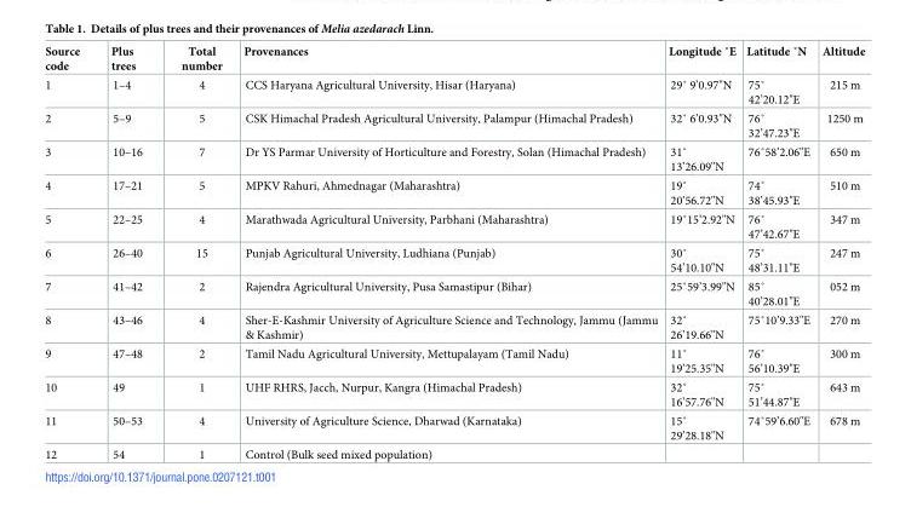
<table><thead><tr><td>Source code</td><td>Plus trees</td><td>Total number</td><td>Provenances</td><td>Longitude ˚E</td><td>Latitude ˚N</td><td>Altitude</td></tr></thead><tbody><tr><td>1</td><td>1–4</td><td>4</td><td>CCS Haryana Agricultural University, Hisar (Haryana)</td><td>29˚ 9’0.97&quot;N</td><td>75˚ 42’20.12&quot;E</td><td>215 m</td></tr><tr><td>2</td><td>5–9</td><td>5</td><td>CSK Himachal Pradesh Agricultural University, Palampur (Himachal Pradesh)</td><td>32˚ 6’0.93&quot;N</td><td>76˚ 32’47.23&quot;E</td><td>1250 m</td></tr><tr><td>3</td><td>10–16</td><td>7</td><td>Dr YS Parmar University of Horticulture and Forestry, Solan (Himachal Pradesh)</td><td>31˚ 13’26.09&quot;N</td><td>76˚58’2.06&quot;E</td><td>650 m</td></tr><tr><td>4</td><td>17–21</td><td>5</td><td>MPKV Rahuri, Ahmednagar (Maharashtra)</td><td>19˚ 20’56.72&quot;N</td><td>74˚ 38’45.93&quot;E</td><td>510 m</td></tr><tr><td>5</td><td>22–25</td><td>4</td><td>Marathwada Agricultural University, Parbhani (Maharashtra)</td><td>19˚15’2.92&quot;N</td><td>76˚ 47’42.67&quot;E</td><td>347 m</td></tr><tr><td>6</td><td>26–40</td><td>15</td><td>Punjab Agricultural University, Ludhiana (Punjab)</td><td>30˚ 54’10.10&quot;N</td><td>75˚ 48’31.11&quot;E</td><td>247 m</td></tr><tr><td>7</td><td>41–42</td><td>2</td><td>Rajendra Agricultural University, Pusa Samastipur (Bihar)</td><td>25˚59’3.99&quot;N</td><td>85˚ 40’28.01&quot;E</td><td>052 m</td></tr><tr><td>8</td><td>43–46</td><td>4</td><td>Sher-E-Kashmir University of Agriculture Science and Technology, Jammu (Jammu &amp; Kashmir)</td><td>32˚ 26’19.66&quot;N</td><td>75˚10’9.33&quot;E</td><td>270 m</td></tr><tr><td>9</td><td>47–48</td><td>2</td><td>Tamil Nadu Agricultural University, Mettupalayam (Tamil Nadu)</td><td>11˚ 19’25.35&quot;N</td><td>76˚ 56’10.39&quot;E</td><td>300 m</td></tr><tr><td>10</td><td>49</td><td>1</td><td>UHF RHRS, Jacch, Nurpur, Kangra (Himachal Pradesh)</td><td>32˚ 16’57.76&quot;N</td><td>75˚ 51’44.87&quot;E</td><td>643 m</td></tr><tr><td>11</td><td>50–53</td><td>4</td><td>University of Agriculture Science, Dharwad (Karnataka)</td><td>15˚ 29’28.18&quot;N</td><td>74˚59’6.60&quot;E</td><td>678 m</td></tr><tr><td>12</td><td>54</td><td>1</td><td>Control (Bulk seed mixed population)</td><td></td><td></td><td></td></tr></tbody></table>